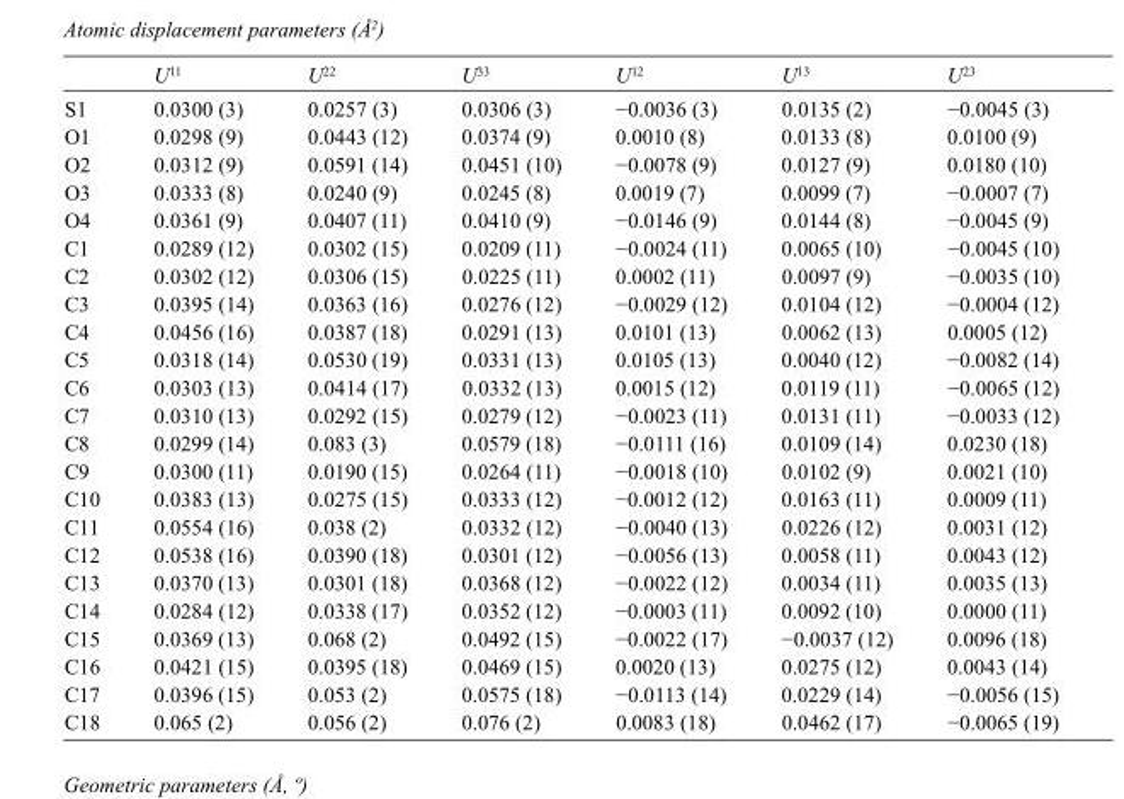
<table><thead><tr><td></td><td>U<sup>11</sup></td><td>U<sup>22</sup></td><td>U<sup>33</sup></td><td>U<sup>12</sup></td><td>U<sup>13</sup></td><td>U<sup>23</sup></td></tr></thead><tbody><tr><td>S1</td><td>0.0300 (3)</td><td>0.0257 (3)</td><td>0.0306 (3)</td><td>−0.0036 (3)</td><td>0.0135 (2)</td><td>−0.0045 (3)</td></tr><tr><td>O1</td><td>0.0298 (9)</td><td>0.0443 (12)</td><td>0.0374 (9)</td><td>0.0010 (8)</td><td>0.0133 (8)</td><td>0.0100 (9)</td></tr><tr><td>O2</td><td>0.0312 (9)</td><td>0.0591 (14)</td><td>0.0451 (10)</td><td>−0.0078 (9)</td><td>0.0127 (9)</td><td>0.0180 (10)</td></tr><tr><td>O3</td><td>0.0333 (8)</td><td>0.0240 (9)</td><td>0.0245 (8)</td><td>0.0019 (7)</td><td>0.0099 (7)</td><td>−0.0007 (7)</td></tr><tr><td>O4</td><td>0.0361 (9)</td><td>0.0407 (11)</td><td>0.0410 (9)</td><td>−0.0146 (9)</td><td>0.0144 (8)</td><td>−0.0045 (9)</td></tr><tr><td>C1</td><td>0.0289 (12)</td><td>0.0302 (15)</td><td>0.0209 (11)</td><td>−0.0024 (11)</td><td>0.0065 (10)</td><td>−0.0045 (10)</td></tr><tr><td>C2</td><td>0.0302 (12)</td><td>0.0306 (15)</td><td>0.0225 (11)</td><td>0.0002 (11)</td><td>0.0097 (9)</td><td>−0.0035 (10)</td></tr><tr><td>C3</td><td>0.0395 (14)</td><td>0.0363 (16)</td><td>0.0276 (12)</td><td>−0.0029 (12)</td><td>0.0104 (12)</td><td>−0.0004 (12)</td></tr><tr><td>C4</td><td>0.0456 (16)</td><td>0.0387 (18)</td><td>0.0291 (13)</td><td>0.0101 (13)</td><td>0.0062 (13)</td><td>0.0005 (12)</td></tr><tr><td>C5</td><td>0.0318 (14)</td><td>0.0530 (19)</td><td>0.0331 (13)</td><td>0.0105 (13)</td><td>0.0040 (12)</td><td>−0.0082 (14)</td></tr><tr><td>C6</td><td>0.0303 (13)</td><td>0.0414 (17)</td><td>0.0332 (13)</td><td>0.0015 (12)</td><td>0.0119 (11)</td><td>−0.0065 (12)</td></tr><tr><td>C7</td><td>0.0310 (13)</td><td>0.0292 (15)</td><td>0.0279 (12)</td><td>−0.0023 (11)</td><td>0.0131 (11)</td><td>−0.0033 (12)</td></tr><tr><td>C8</td><td>0.0299 (14)</td><td>0.083 (3)</td><td>0.0579 (18)</td><td>−0.0111 (16)</td><td>0.0109 (14)</td><td>0.0230 (18)</td></tr><tr><td>C9</td><td>0.0300 (11)</td><td>0.0190 (15)</td><td>0.0264 (11)</td><td>−0.0018 (10)</td><td>0.0102 (9)</td><td>0.0021 (10)</td></tr><tr><td>C10</td><td>0.0383 (13)</td><td>0.0275 (15)</td><td>0.0333 (12)</td><td>−0.0012 (12)</td><td>0.0163 (11)</td><td>0.0009 (11)</td></tr><tr><td>C11</td><td>0.0554 (16)</td><td>0.038 (2)</td><td>0.0332 (12)</td><td>−0.0040 (13)</td><td>0.0226 (12)</td><td>0.0031 (12)</td></tr><tr><td>C12</td><td>0.0538 (16)</td><td>0.0390 (18)</td><td>0.0301 (12)</td><td>−0.0056 (13)</td><td>0.0058 (11)</td><td>0.0043 (12)</td></tr><tr><td>C13</td><td>0.0370 (13)</td><td>0.0301 (18)</td><td>0.0368 (12)</td><td>−0.0022 (12)</td><td>0.0034 (11)</td><td>0.0035 (13)</td></tr><tr><td>C14</td><td>0.0284 (12)</td><td>0.0338 (17)</td><td>0.0352 (12)</td><td>−0.0003 (11)</td><td>0.0092 (10)</td><td>0.0000 (11)</td></tr><tr><td>C15</td><td>0.0369 (13)</td><td>0.068 (2)</td><td>0.0492 (15)</td><td>−0.0022 (17)</td><td>−0.0037 (12)</td><td>0.0096 (18)</td></tr><tr><td>C16</td><td>0.0421 (15)</td><td>0.0395 (18)</td><td>0.0469 (15)</td><td>0.0020 (13)</td><td>0.0275 (12)</td><td>0.0043 (14)</td></tr><tr><td>C17</td><td>0.0396 (15)</td><td>0.053 (2)</td><td>0.0575 (18)</td><td>−0.0113 (14)</td><td>0.0229 (14)</td><td>−0.0056 (15)</td></tr><tr><td>C18</td><td>0.065 (2)</td><td>0.056 (2)</td><td>0.076 (2)</td><td>0.0083 (18)</td><td>0.0462 (17)</td><td>−0.0065 (19)</td></tr></tbody></table>